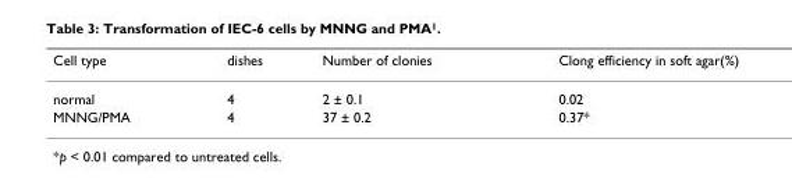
<table><thead><tr><td>Cell type</td><td>dishes</td><td>Number of clonies</td><td>Clong efficiency in soft agar(%)</td></tr></thead><tbody><tr><td>normal</td><td>4</td><td>2 ± 0.1</td><td>0.02</td></tr><tr><td>MNNG/PMA</td><td>4</td><td>37 ± 0.2</td><td>0.37*</td></tr></tbody></table>